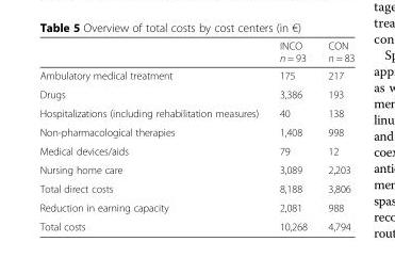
<table><thead><tr><td></td><td>INCO n = 93</td><td>CON n = 83</td></tr></thead><tbody><tr><td>Ambulatory medical treatment</td><td>175</td><td>217</td></tr><tr><td>Drugs</td><td>3,386</td><td>193</td></tr><tr><td>Hospitalizations (including rehabilitation measures)</td><td>40</td><td>138</td></tr><tr><td>Non-pharmacological therapies</td><td>1,408</td><td>998</td></tr><tr><td>Medical devices/aids</td><td>79</td><td>12</td></tr><tr><td>Nursing home care</td><td>3,089</td><td>2,203</td></tr><tr><td>Total direct costs</td><td>8,188</td><td>3,806</td></tr><tr><td>Reduction in earning capacity</td><td>2,081</td><td>988</td></tr><tr><td>Total costs</td><td>10,268</td><td>4,794</td></tr></tbody></table>